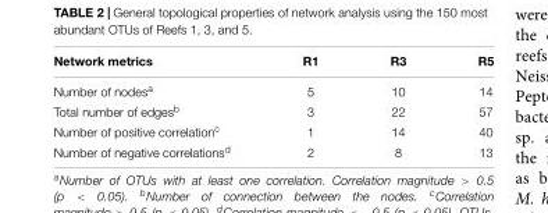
<table><thead><tr><td>Network metrics</td><td>R1</td><td>R3</td><td>R5</td></tr></thead><tbody><tr><td>Number of nodes<sup>a</sup></td><td>5</td><td>10</td><td>14</td></tr><tr><td>Total number of edges<sup>b</sup></td><td>3</td><td>22</td><td>57</td></tr><tr><td>Number of positive correlation<sup>c</sup></td><td>1</td><td>14</td><td>40</td></tr><tr><td>Number of negative correlations<sup>d</sup></td><td>2</td><td>8</td><td>13</td></tr></tbody></table>